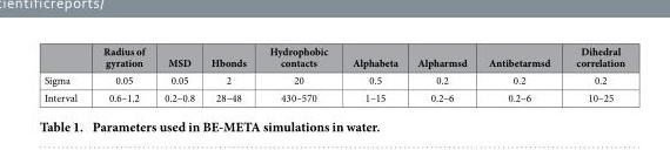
<table><thead><tr><td></td><td>Radius of gyration</td><td>MSD</td><td>Hbonds</td><td>Hydrophobic contacts</td><td>Alphabeta</td><td>Alpharmsd</td><td>Antibetarmsd</td><td>Dihedral correlation</td></tr></thead><tbody><tr><td>Sigma</td><td>0.05</td><td>0.05</td><td>2</td><td>20</td><td>0.5</td><td>0.2</td><td>0.2</td><td>0.2</td></tr><tr><td>Interval</td><td>0.6–1.2</td><td>0.2–0.8</td><td>28–48</td><td>430–570</td><td>1–15</td><td>0.2–6</td><td>0.2–6</td><td>10–25</td></tr></tbody></table>